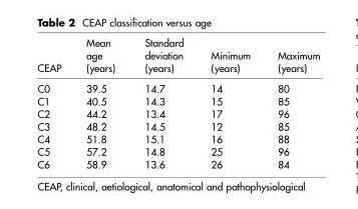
<table><thead><tr><td>CEAP</td><td>Mean age (years)</td><td>Standard deviation (years)</td><td>Minimum (years)</td><td>Maximum (years)</td></tr></thead><tbody><tr><td>C0</td><td>39.5</td><td>14.7</td><td>14</td><td>80</td></tr><tr><td>C1</td><td>40.5</td><td>14.3</td><td>15</td><td>85</td></tr><tr><td>C2</td><td>44.2</td><td>13.4</td><td>17</td><td>96</td></tr><tr><td>C3</td><td>48.2</td><td>14.5</td><td>12</td><td>85</td></tr><tr><td>C4</td><td>51.8</td><td>15.1</td><td>16</td><td>88</td></tr><tr><td>C5</td><td>57.2</td><td>14.8</td><td>25</td><td>96</td></tr><tr><td>C6</td><td>58.9</td><td>13.6</td><td>26</td><td>84</td></tr></tbody></table>